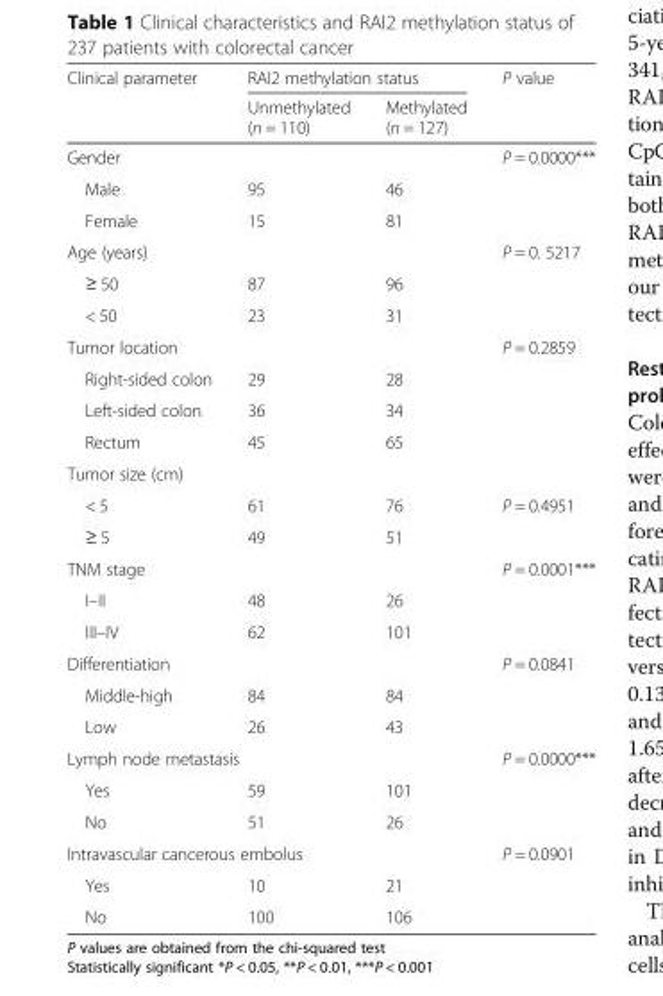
<table><thead><tr><td rowspan="2">Clinical parameter</td><td colspan="2">RAI2 methylation status</td><td rowspan="2">P value</td></tr><tr><td>Unmethylated (n = 110)</td><td>Methylated (n = 127)</td></tr></thead><tbody><tr><td colspan="3">Gender</td><td rowspan="3">P = 0.0000***</td></tr><tr><td>Male</td><td>95</td><td>46</td></tr><tr><td>Female</td><td>15</td><td>81</td></tr><tr><td colspan="3">Age (years)</td><td rowspan="3">P = 0. 5217</td></tr><tr><td>≥ 50</td><td>87</td><td>96</td></tr><tr><td>&lt; 50</td><td>23</td><td>31</td></tr><tr><td colspan="3">Tumor location</td><td rowspan="5">P = 0.2859</td></tr><tr><td>Right-sided colon</td><td>29</td><td>28</td></tr><tr><td>Left-sided colon</td><td>36</td><td>34</td></tr><tr><td>Rectum</td><td>45</td><td>65</td></tr><tr><td colspan="3">Tumor size (cm)</td></tr><tr><td>&lt; 5</td><td>61</td><td>76</td><td rowspan="2">P = 0.4951</td></tr><tr><td>≥ 5</td><td>49</td><td>51</td></tr><tr><td colspan="3">TNM stage</td><td rowspan="3">P = 0.0001***</td></tr><tr><td>I–II</td><td>48</td><td>26</td></tr><tr><td>III–IV</td><td>62</td><td>101</td></tr><tr><td colspan="3">Differentiation</td><td rowspan="3">P = 0.0841</td></tr><tr><td>Middle-high</td><td>84</td><td>84</td></tr><tr><td>Low</td><td>26</td><td>43</td></tr><tr><td colspan="3">Lymph node metastasis</td><td rowspan="3">P = 0.0000***</td></tr><tr><td>Yes</td><td>59</td><td>101</td></tr><tr><td>No</td><td>51</td><td>26</td></tr><tr><td colspan="3">Intravascular cancerous embolus</td><td rowspan="3">P = 0.0901</td></tr><tr><td>Yes</td><td>10</td><td>21</td></tr><tr><td>No</td><td>100</td><td>106</td></tr></tbody></table>